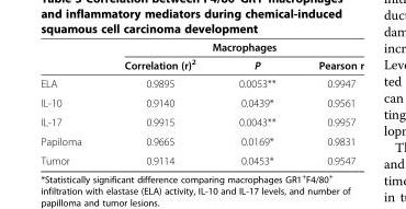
<table><thead><tr><td rowspan="2"></td><td colspan="3">Macrophages</td></tr><tr><td>Correlation (r)<sup>2</sup></td><td>P</td><td>Pearson r</td></tr></thead><tbody><tr><td>ELA</td><td>0.9895</td><td>0.0053**</td><td>0.9947</td></tr><tr><td>IL-10</td><td>0.9140</td><td>0.0439*</td><td>0.9561</td></tr><tr><td>IL-17</td><td>0.9915</td><td>0.0043**</td><td>0.9957</td></tr><tr><td>Papiloma</td><td>0.9665</td><td>0.0169*</td><td>0.9831</td></tr><tr><td>Tumor</td><td>0.9114</td><td>0.0453*</td><td>0.9547</td></tr></tbody></table>